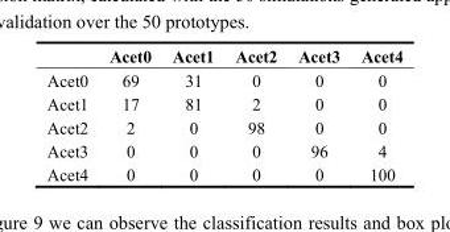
<table><thead><tr><td></td><td>Acet0</td><td>Acet1</td><td>Acet2</td><td>Acet3</td><td>Acet4</td></tr></thead><tbody><tr><td>Acet0</td><td>69</td><td>31</td><td>0</td><td>0</td><td>0</td></tr><tr><td>Acet1</td><td>17</td><td>81</td><td>2</td><td>0</td><td>0</td></tr><tr><td>Acet2</td><td>2</td><td>0</td><td>98</td><td>0</td><td>0</td></tr><tr><td>Acet3</td><td>0</td><td>0</td><td>0</td><td>96</td><td>4</td></tr><tr><td>Acet4</td><td>0</td><td>0</td><td>0</td><td>0</td><td>100</td></tr></tbody></table>